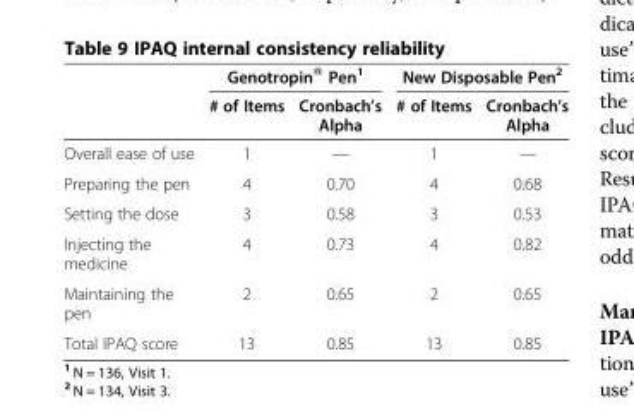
<table><thead><tr><td rowspan="2"></td><td colspan="2">Genotropin® Pen<sup>1</sup></td><td colspan="2">New Disposable Pen<sup>2</sup></td></tr><tr><td># of Items</td><td>Cronbach’s Alpha</td><td># of Items</td><td>Cronbach’s Alpha</td></tr></thead><tbody><tr><td>Overall ease of use</td><td>1</td><td>—</td><td>1</td><td>—</td></tr><tr><td>Preparing the pen</td><td>4</td><td>0.70</td><td>4</td><td>0.68</td></tr><tr><td>Setting the dose</td><td>3</td><td>0.58</td><td>3</td><td>0.53</td></tr><tr><td>Injecting the medicine</td><td>4</td><td>0.73</td><td>4</td><td>0.82</td></tr><tr><td>Maintaining the pen</td><td>2</td><td>0.65</td><td>2</td><td>0.65</td></tr><tr><td>Total IPAQ score</td><td>13</td><td>0.85</td><td>13</td><td>0.85</td></tr></tbody></table>